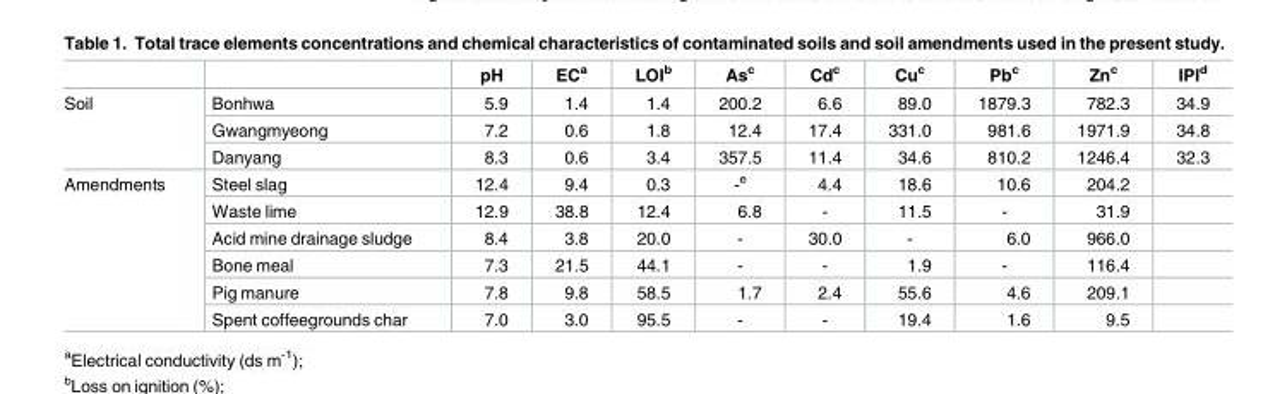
<table><thead><tr><td></td><td></td><td>pH</td><td>EC<sup>a</sup></td><td>LOI<sup>b</sup></td><td>As<sup>c</sup></td><td>Cd<sup>c</sup></td><td>Cu<sup>c</sup></td><td>Pb<sup>c</sup></td><td>Zn<sup>c</sup></td><td>IPI<sup>d</sup></td></tr></thead><tbody><tr><td rowspan="3">Soil</td><td>Bonhwa</td><td>5.9</td><td>1.4</td><td>1.4</td><td>200.2</td><td>6.6</td><td>89.0</td><td>1879.3</td><td>782.3</td><td>34.9</td></tr><tr><td>Gwangmyeong</td><td>7.2</td><td>0.6</td><td>1.8</td><td>12.4</td><td>17.4</td><td>331.0</td><td>981.6</td><td>1971.9</td><td>34.8</td></tr><tr><td>Danyang</td><td>8.3</td><td>0.6</td><td>3.4</td><td>357.5</td><td>11.4</td><td>34.6</td><td>810.2</td><td>1246.4</td><td>32.3</td></tr><tr><td rowspan="6">Amendments</td><td>Steel slag</td><td>12.4</td><td>9.4</td><td>0.3</td><td>-<sup>e</sup></td><td>4.4</td><td>18.6</td><td>10.6</td><td>204.2</td><td></td></tr><tr><td>Waste lime</td><td>12.9</td><td>38.8</td><td>12.4</td><td>6.8</td><td>-</td><td>11.5</td><td>-</td><td>31.9</td><td></td></tr><tr><td>Acid mine drainage sludge</td><td>8.4</td><td>3.8</td><td>20.0</td><td>-</td><td>30.0</td><td>-</td><td>6.0</td><td>966.0</td><td></td></tr><tr><td>Bone meal</td><td>7.3</td><td>21.5</td><td>44.1</td><td>-</td><td>-</td><td>1.9</td><td>-</td><td>116.4</td><td></td></tr><tr><td>Pig manure</td><td>7.8</td><td>9.8</td><td>58.5</td><td>1.7</td><td>2.4</td><td>55.6</td><td>4.6</td><td>209.1</td><td></td></tr><tr><td>Spent coffeegrounds char</td><td>7.0</td><td>3.0</td><td>95.5</td><td>-</td><td>-</td><td>19.4</td><td>1.6</td><td>9.5</td><td></td></tr></tbody></table>